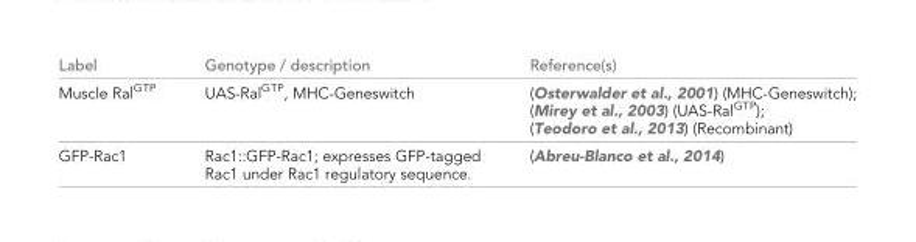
<table><thead><tr><td>Label</td><td>Genotype / description</td><td>Reference(s)</td></tr></thead><tbody><tr><td>Muscle Ral<sup>GTP</sup></td><td>UAS-Ral<sup>GTP</sup>, MHC-Geneswitch</td><td>(Osterwalder et al., 2001) (MHC-Geneswitch); (Mirey et al., 2003) (UAS-Ral<sup>GTP</sup>); (Teodoro et al., 2013) (Recombinant)</td></tr><tr><td>GFP-Rac1</td><td>Rac1::GFP-Rac1; expresses GFP-tagged Rac1 under Rac1 regulatory sequence.</td><td>(Abreu-Blanco et al., 2014)</td></tr></tbody></table>